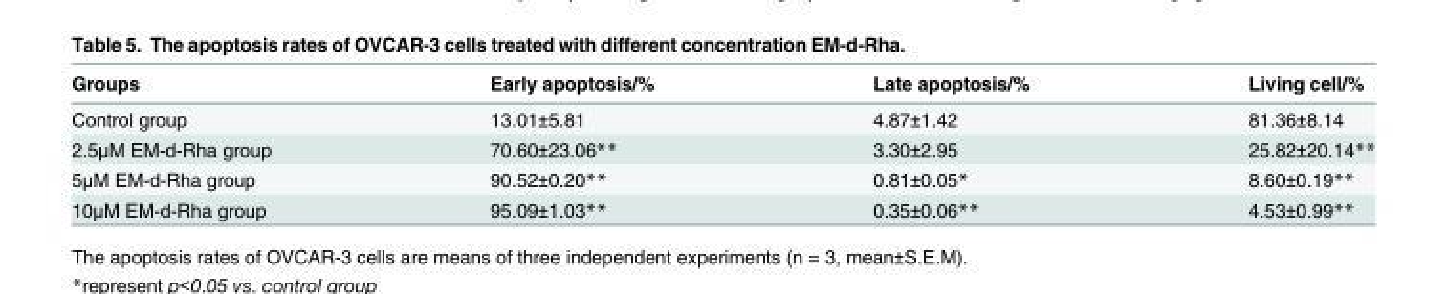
<table><thead><tr><td>Groups</td><td>Early apoptosis/%</td><td>Late apoptosis/%</td><td>Living cell/%</td></tr></thead><tbody><tr><td>Control group</td><td>13.01±5.81</td><td>4.87±1.42</td><td>81.36±8.14</td></tr><tr><td>2.5μM EM-d-Rha group</td><td>70.60±23.06**</td><td>3.30±2.95</td><td>25.82±20.14**</td></tr><tr><td>5μM EM-d-Rha group</td><td>90.52±0.20**</td><td>0.81±0.05*</td><td>8.60±0.19**</td></tr><tr><td>10μM EM-d-Rha group</td><td>95.09±1.03**</td><td>0.35±0.06**</td><td>4.53±0.99**</td></tr></tbody></table>